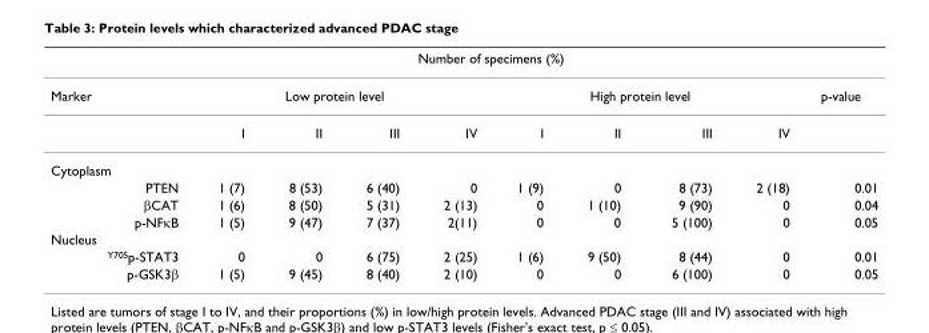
<table><thead><tr><td rowspan="3">Marker</td><td colspan="8">Number of specimens (%)</td><td rowspan="3">p-value</td></tr><tr><td colspan="4">Low protein level</td><td colspan="4">High protein level</td></tr><tr><td>I</td><td>II</td><td>III</td><td>IV</td><td>I</td><td>II</td><td>III</td><td>IV</td></tr></thead><tbody><tr><td colspan="10">Cytoplasm</td></tr><tr><td>PTEN</td><td>1 (7)</td><td>8 (53)</td><td>6 (40)</td><td>0</td><td>1 (9)</td><td>0</td><td>8 (73)</td><td>2 (18)</td><td>0.01</td></tr><tr><td>βCAT</td><td>1 (6)</td><td>8 (50)</td><td>5 (31)</td><td>2 (13)</td><td>0</td><td>1 (10)</td><td>9 (90)</td><td>0</td><td>0.04</td></tr><tr><td>p-NFκB</td><td>1 (5)</td><td>9 (47)</td><td>7 (37)</td><td>2(11)</td><td>0</td><td>0</td><td>5 (100)</td><td>0</td><td>0.05</td></tr><tr><td colspan="10">Nucleus</td></tr><tr><td><sup>Y705</sup>p-STAT3</td><td>0</td><td>0</td><td>6 (75)</td><td>2 (25)</td><td>1 (6)</td><td>9 (50)</td><td>8 (44)</td><td>0</td><td>0.01</td></tr><tr><td>p-GSK3β</td><td>1 (5)</td><td>9 (45)</td><td>8 (40)</td><td>2 (10)</td><td>0</td><td>0</td><td>6 (100)</td><td>0</td><td>0.05</td></tr></tbody></table>